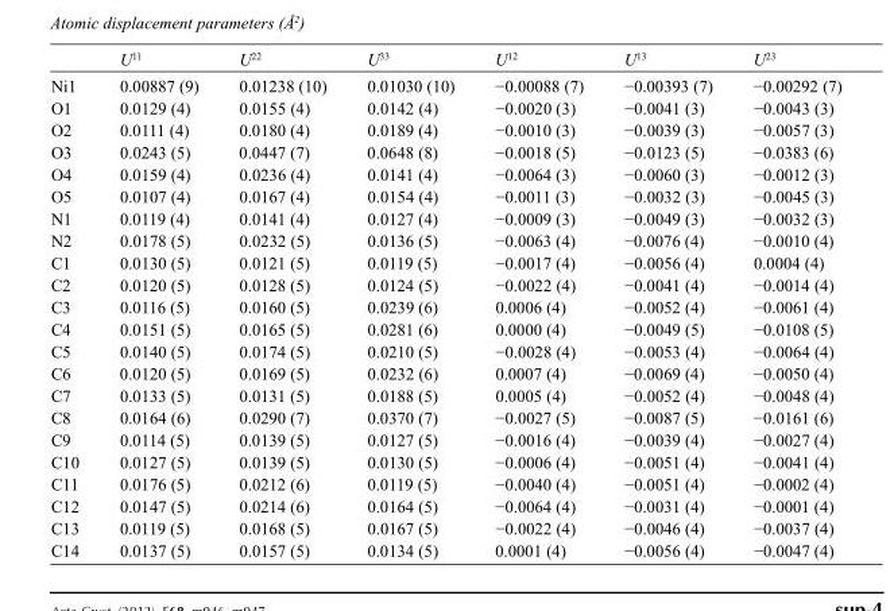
<table><thead><tr><td></td><td>U<sup>11</sup></td><td>U<sup>22</sup></td><td>U<sup>33</sup></td><td>U<sup>12</sup></td><td>U<sup>13</sup></td><td>U<sup>23</sup></td></tr></thead><tbody><tr><td>Ni1</td><td>0.00887 (9)</td><td>0.01238 (10)</td><td>0.01030 (10)</td><td>−0.00088 (7)</td><td>−0.00393 (7)</td><td>−0.00292 (7)</td></tr><tr><td>O1</td><td>0.0129 (4)</td><td>0.0155 (4)</td><td>0.0142 (4)</td><td>−0.0020 (3)</td><td>−0.0041 (3)</td><td>−0.0043 (3)</td></tr><tr><td>O2</td><td>0.0111 (4)</td><td>0.0180 (4)</td><td>0.0189 (4)</td><td>−0.0010 (3)</td><td>−0.0039 (3)</td><td>−0.0057 (3)</td></tr><tr><td>O3</td><td>0.0243 (5)</td><td>0.0447 (7)</td><td>0.0648 (8)</td><td>−0.0018 (5)</td><td>−0.0123 (5)</td><td>−0.0383 (6)</td></tr><tr><td>O4</td><td>0.0159 (4)</td><td>0.0236 (4)</td><td>0.0141 (4)</td><td>−0.0064 (3)</td><td>−0.0060 (3)</td><td>−0.0012 (3)</td></tr><tr><td>O5</td><td>0.0107 (4)</td><td>0.0167 (4)</td><td>0.0154 (4)</td><td>−0.0011 (3)</td><td>−0.0032 (3)</td><td>−0.0045 (3)</td></tr><tr><td>N1</td><td>0.0119 (4)</td><td>0.0141 (4)</td><td>0.0127 (4)</td><td>−0.0009 (3)</td><td>−0.0049 (3)</td><td>−0.0032 (3)</td></tr><tr><td>N2</td><td>0.0178 (5)</td><td>0.0232 (5)</td><td>0.0136 (5)</td><td>−0.0063 (4)</td><td>−0.0076 (4)</td><td>−0.0010 (4)</td></tr><tr><td>C1</td><td>0.0130 (5)</td><td>0.0121 (5)</td><td>0.0119 (5)</td><td>−0.0017 (4)</td><td>−0.0056 (4)</td><td>0.0004 (4)</td></tr><tr><td>C2</td><td>0.0120 (5)</td><td>0.0128 (5)</td><td>0.0124 (5)</td><td>−0.0022 (4)</td><td>−0.0041 (4)</td><td>−0.0014 (4)</td></tr><tr><td>C3</td><td>0.0116 (5)</td><td>0.0160 (5)</td><td>0.0239 (6)</td><td>0.0006 (4)</td><td>−0.0052 (4)</td><td>−0.0061 (4)</td></tr><tr><td>C4</td><td>0.0151 (5)</td><td>0.0165 (5)</td><td>0.0281 (6)</td><td>0.0000 (4)</td><td>−0.0049 (5)</td><td>−0.0108 (5)</td></tr><tr><td>C5</td><td>0.0140 (5)</td><td>0.0174 (5)</td><td>0.0210 (5)</td><td>−0.0028 (4)</td><td>−0.0053 (4)</td><td>−0.0064 (4)</td></tr><tr><td>C6</td><td>0.0120 (5)</td><td>0.0169 (5)</td><td>0.0232 (6)</td><td>0.0007 (4)</td><td>−0.0069 (4)</td><td>−0.0050 (4)</td></tr><tr><td>C7</td><td>0.0133 (5)</td><td>0.0131 (5)</td><td>0.0188 (5)</td><td>0.0005 (4)</td><td>−0.0052 (4)</td><td>−0.0048 (4)</td></tr><tr><td>C8</td><td>0.0164 (6)</td><td>0.0290 (7)</td><td>0.0370 (7)</td><td>−0.0027 (5)</td><td>−0.0087 (5)</td><td>−0.0161 (6)</td></tr><tr><td>C9</td><td>0.0114 (5)</td><td>0.0139 (5)</td><td>0.0127 (5)</td><td>−0.0016 (4)</td><td>−0.0039 (4)</td><td>−0.0027 (4)</td></tr><tr><td>C10</td><td>0.0127 (5)</td><td>0.0139 (5)</td><td>0.0130 (5)</td><td>−0.0006 (4)</td><td>−0.0051 (4)</td><td>−0.0041 (4)</td></tr><tr><td>C11</td><td>0.0176 (5)</td><td>0.0212 (6)</td><td>0.0119 (5)</td><td>−0.0040 (4)</td><td>−0.0051 (4)</td><td>−0.0002 (4)</td></tr><tr><td>C12</td><td>0.0147 (5)</td><td>0.0214 (6)</td><td>0.0164 (5)</td><td>−0.0064 (4)</td><td>−0.0031 (4)</td><td>−0.0001 (4)</td></tr><tr><td>C13</td><td>0.0119 (5)</td><td>0.0168 (5)</td><td>0.0167 (5)</td><td>−0.0022 (4)</td><td>−0.0046 (4)</td><td>−0.0037 (4)</td></tr><tr><td>C14</td><td>0.0137 (5)</td><td>0.0157 (5)</td><td>0.0134 (5)</td><td>0.0001 (4)</td><td>−0.0056 (4)</td><td>−0.0047 (4)</td></tr></tbody></table>